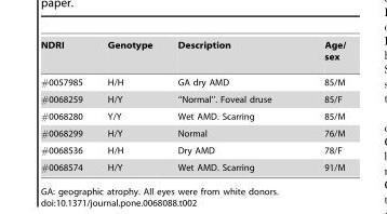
<table><tbody><tr><td>NDRI</td><td>Genotype</td><td>Description</td><td>Age/ sex</td></tr><tr><td>#0057985</td><td>H/H</td><td>GA dry AMD</td><td>85/M</td></tr><tr><td>#0068259</td><td>H/Y</td><td>‘‘Normal’’. Foveal druse</td><td>85/F</td></tr><tr><td>#0068280</td><td>Y/Y</td><td>Wet AMD. Scarring</td><td>85/M</td></tr><tr><td>#0068299</td><td>H/Y</td><td>Normal</td><td>76/M</td></tr><tr><td>#0068536</td><td>H/H</td><td>Dry AMD</td><td>78/F</td></tr><tr><td>#0068574</td><td>H/Y</td><td>Wet AMD. Scarring</td><td>91/M</td></tr></tbody></table>